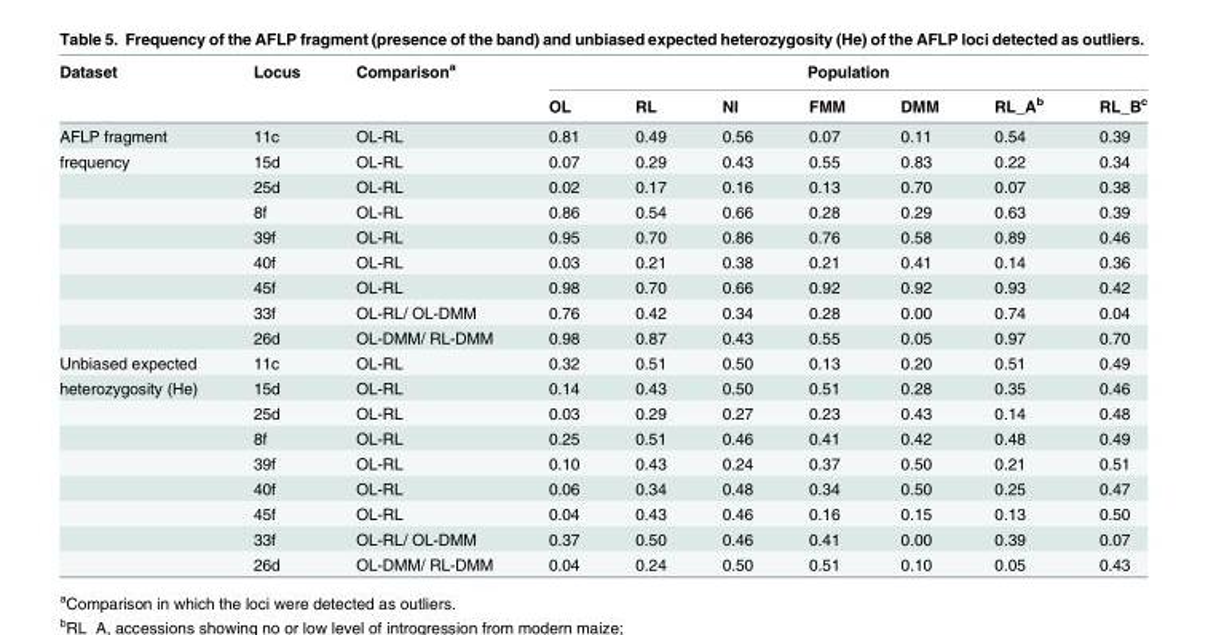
<table><thead><tr><td rowspan="2">Dataset</td><td rowspan="2">Locus</td><td rowspan="2">Comparison<sup>a</sup></td><td colspan="7">Population</td></tr><tr><td>OL</td><td>RL</td><td>NI</td><td>FMM</td><td>DMM</td><td>RL_A<sup>b</sup></td><td>RL_B<sup>c</sup></td></tr></thead><tbody><tr><td>AFLP fragment</td><td>11c</td><td>OL-RL</td><td>0.81</td><td>0.49</td><td>0.56</td><td>0.07</td><td>0.11</td><td>0.54</td><td>0.39</td></tr><tr><td rowspan="8">frequency</td><td>15d</td><td>OL-RL</td><td>0.07</td><td>0.29</td><td>0.43</td><td>0.55</td><td>0.83</td><td>0.22</td><td>0.34</td></tr><tr><td>25d</td><td>OL-RL</td><td>0.02</td><td>0.17</td><td>0.16</td><td>0.13</td><td>0.70</td><td>0.07</td><td>0.38</td></tr><tr><td>8f</td><td>OL-RL</td><td>0.86</td><td>0.54</td><td>0.66</td><td>0.28</td><td>0.29</td><td>0.63</td><td>0.39</td></tr><tr><td>39f</td><td>OL-RL</td><td>0.95</td><td>0.70</td><td>0.86</td><td>0.76</td><td>0.58</td><td>0.89</td><td>0.46</td></tr><tr><td>40f</td><td>OL-RL</td><td>0.03</td><td>0.21</td><td>0.38</td><td>0.21</td><td>0.41</td><td>0.14</td><td>0.36</td></tr><tr><td>45f</td><td>OL-RL</td><td>0.98</td><td>0.70</td><td>0.66</td><td>0.92</td><td>0.92</td><td>0.93</td><td>0.42</td></tr><tr><td>33f</td><td>OL-RL/ OL-DMM</td><td>0.76</td><td>0.42</td><td>0.34</td><td>0.28</td><td>0.00</td><td>0.74</td><td>0.04</td></tr><tr><td>26d</td><td>OL-DMM/ RL-DMM</td><td>0.98</td><td>0.87</td><td>0.43</td><td>0.55</td><td>0.05</td><td>0.97</td><td>0.70</td></tr><tr><td>Unbiased expected</td><td>11c</td><td>OL-RL</td><td>0.32</td><td>0.51</td><td>0.50</td><td>0.13</td><td>0.20</td><td>0.51</td><td>0.49</td></tr><tr><td rowspan="8">heterozygosity (He)</td><td>15d</td><td>OL-RL</td><td>0.14</td><td>0.43</td><td>0.50</td><td>0.51</td><td>0.28</td><td>0.35</td><td>0.46</td></tr><tr><td>25d</td><td>OL-RL</td><td>0.03</td><td>0.29</td><td>0.27</td><td>0.23</td><td>0.43</td><td>0.14</td><td>0.48</td></tr><tr><td>8f</td><td>OL-RL</td><td>0.25</td><td>0.51</td><td>0.46</td><td>0.41</td><td>0.42</td><td>0.48</td><td>0.49</td></tr><tr><td>39f</td><td>OL-RL</td><td>0.10</td><td>0.43</td><td>0.24</td><td>0.37</td><td>0.50</td><td>0.21</td><td>0.51</td></tr><tr><td>40f</td><td>OL-RL</td><td>0.06</td><td>0.34</td><td>0.48</td><td>0.34</td><td>0.50</td><td>0.25</td><td>0.47</td></tr><tr><td>45f</td><td>OL-RL</td><td>0.04</td><td>0.43</td><td>0.46</td><td>0.16</td><td>0.15</td><td>0.13</td><td>0.50</td></tr><tr><td>33f</td><td>OL-RL/ OL-DMM</td><td>0.37</td><td>0.50</td><td>0.46</td><td>0.41</td><td>0.00</td><td>0.39</td><td>0.07</td></tr><tr><td>26d</td><td>OL-DMM/ RL-DMM</td><td>0.04</td><td>0.24</td><td>0.50</td><td>0.51</td><td>0.10</td><td>0.05</td><td>0.43</td></tr></tbody></table>